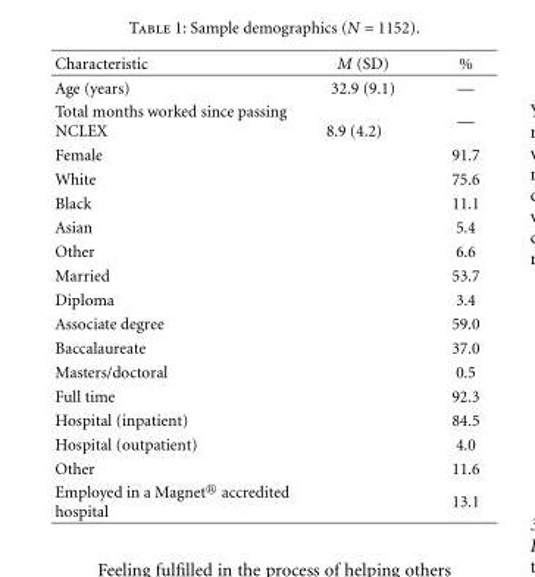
<table><thead><tr><td>Characteristic</td><td>M (SD)</td><td>%</td></tr></thead><tbody><tr><td>Age (years)</td><td>32.9 (9.1)</td><td>—</td></tr><tr><td>Total months worked since passing NCLEX</td><td rowspan="2">8.9 (4.2)</td><td>—</td></tr><tr><td>Female</td><td>91.7</td></tr><tr><td>White</td><td></td><td>75.6</td></tr><tr><td>Black</td><td></td><td>11.1</td></tr><tr><td>Asian</td><td></td><td>5.4</td></tr><tr><td>Other</td><td></td><td>6.6</td></tr><tr><td>Married</td><td></td><td>53.7</td></tr><tr><td>Diploma</td><td></td><td>3.4</td></tr><tr><td>Associate degree</td><td></td><td>59.0</td></tr><tr><td>Baccalaureate</td><td></td><td>37.0</td></tr><tr><td>Masters/doctoral</td><td></td><td>0.5</td></tr><tr><td>Full time</td><td></td><td>92.3</td></tr><tr><td>Hospital (inpatient)</td><td></td><td>84.5</td></tr><tr><td>Hospital (outpatient)</td><td></td><td>4.0</td></tr><tr><td>Other</td><td></td><td>11.6</td></tr><tr><td>Employed in a Magnet<sup>®</sup> accredited hospital</td><td></td><td>13.1</td></tr></tbody></table>